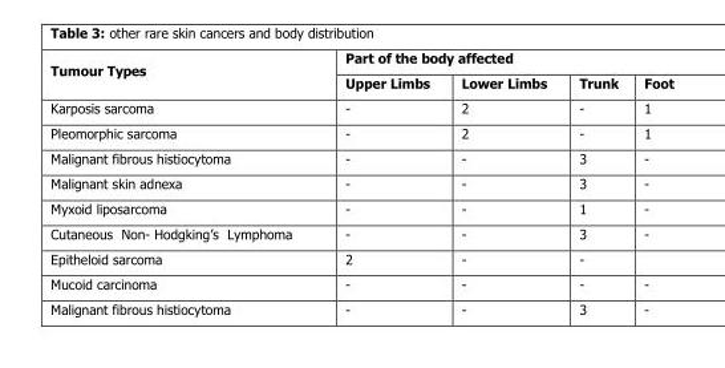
<table><thead><tr><td rowspan="2">Tumour Types</td><td colspan="4">Part of the body affected</td></tr><tr><td>Upper Limbs</td><td>Lower Limbs</td><td>Trunk</td><td>Foot</td></tr></thead><tbody><tr><td>Karposis sarcoma</td><td>-</td><td>2</td><td>-</td><td>1</td></tr><tr><td>Pleomorphic sarcoma</td><td>-</td><td>2</td><td>-</td><td>1</td></tr><tr><td>Malignant fibrous histiocytoma</td><td>-</td><td>-</td><td>3</td><td>-</td></tr><tr><td>Malignant skin adnexa</td><td>-</td><td>-</td><td>3</td><td>-</td></tr><tr><td>Myxoid liposarcoma</td><td>-</td><td>-</td><td>1</td><td>-</td></tr><tr><td>Cutaneous Non- Hodgking’s Lymphoma</td><td>-</td><td>-</td><td>3</td><td>-</td></tr><tr><td>Epitheloid sarcoma</td><td>2</td><td>-</td><td>-</td><td></td></tr><tr><td>Mucoid carcinoma</td><td>-</td><td>-</td><td>-</td><td>-</td></tr><tr><td>Malignant fibrous histiocytoma</td><td>-</td><td>-</td><td>3</td><td>-</td></tr></tbody></table>